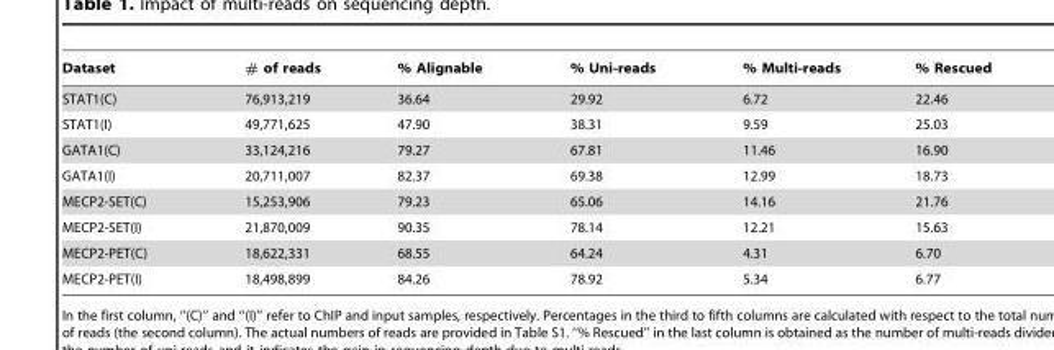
<table><thead><tr><td>Dataset</td><td># of reads</td><td>% Alignable</td><td>% Uni-reads</td><td>% Multi-reads</td><td>% Rescued</td></tr></thead><tbody><tr><td>STAT1(C)</td><td>76,913,219</td><td>36.64</td><td>29.92</td><td>6.72</td><td>22.46</td></tr><tr><td>STAT1(I)</td><td>49,771,625</td><td>47.90</td><td>38.31</td><td>9.59</td><td>25.03</td></tr><tr><td>GATA1(C)</td><td>33,124,216</td><td>79.27</td><td>67.81</td><td>11.46</td><td>16.90</td></tr><tr><td>GATA1(I)</td><td>20,711,007</td><td>82.37</td><td>69.38</td><td>12.99</td><td>18.73</td></tr><tr><td>MECP2-SET(C)</td><td>15,253,906</td><td>79.23</td><td>65.06</td><td>14.16</td><td>21.76</td></tr><tr><td>MECP2-SET(I)</td><td>21,870,009</td><td>90.35</td><td>78.14</td><td>12.21</td><td>15.63</td></tr><tr><td>MECP2-PET(C)</td><td>18,622,331</td><td>68.55</td><td>64.24</td><td>4.31</td><td>6.70</td></tr><tr><td>MECP2-PET(I)</td><td>18,498,899</td><td>84.26</td><td>78.92</td><td>5.34</td><td>6.77</td></tr></tbody></table>